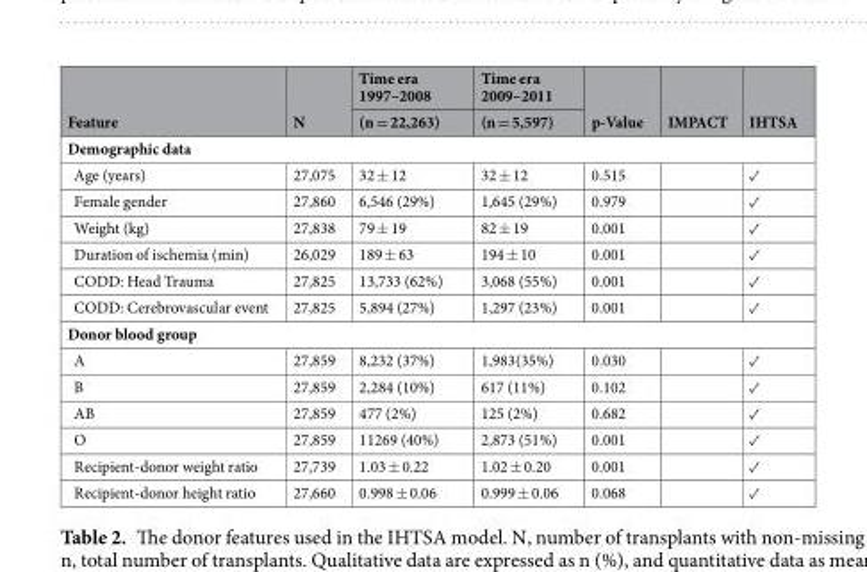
<table><thead><tr><td rowspan="2">Feature</td><td rowspan="2">N</td><td rowspan="2">Time era 1997–2008 (n = 22,263)</td><td rowspan="2">Time era 2009–2011 (n = 5,597)</td><td rowspan="2">p-Value</td><td rowspan="2">IMPACT</td><td rowspan="2">IHTSA</td></tr><tr></tr></thead><tbody><tr><td colspan="7">Demographic data</td></tr><tr><td>Age (years)</td><td>27,075</td><td>32 ± 12</td><td>32 ± 12</td><td>0.515</td><td></td><td>✓</td></tr><tr><td>Female gender</td><td>27,860</td><td>6,546 (29%)</td><td>1,645 (29%)</td><td>0.979</td><td></td><td>✓</td></tr><tr><td>Weight (kg)</td><td>27,838</td><td>79 ± 19</td><td>82 ± 19</td><td>0.001</td><td></td><td>✓</td></tr><tr><td>Duration of ischemia (min)</td><td>26,029</td><td>189 ± 63</td><td>194 ± 10</td><td>0.001</td><td></td><td>✓</td></tr><tr><td>CODD: Head Trauma</td><td>27,825</td><td>13,733 (62%)</td><td>3,068 (55%)</td><td>0.001</td><td></td><td>✓</td></tr><tr><td>CODD: Cerebrovascular event</td><td>27,825</td><td>5,894 (27%)</td><td>1,297 (23%)</td><td>0.001</td><td></td><td>✓</td></tr><tr><td colspan="7">Donor blood group</td></tr><tr><td>A</td><td>27,859</td><td>8,232 (37%)</td><td>1,983(35%)</td><td>0.030</td><td></td><td>✓</td></tr><tr><td>B</td><td>27,859</td><td>2,284 (10%)</td><td>617 (11%)</td><td>0.102</td><td></td><td>✓</td></tr><tr><td>AB</td><td>27,859</td><td>477 (2%)</td><td>125 (2%)</td><td>0.682</td><td></td><td>✓</td></tr><tr><td>O</td><td>27,859</td><td>11269 (40%)</td><td>2,873 (51%)</td><td>0.001</td><td></td><td>✓</td></tr><tr><td>Recipient-donor weight ratio</td><td>27,739</td><td>1.03 ± 0.22</td><td>1.02 ± 0.20</td><td>0.001</td><td></td><td>✓</td></tr><tr><td>Recipient-donor height ratio</td><td>27,660</td><td>0.998 ± 0.06</td><td>0.999 ± 0.06</td><td>0.068</td><td></td><td>✓</td></tr></tbody></table>